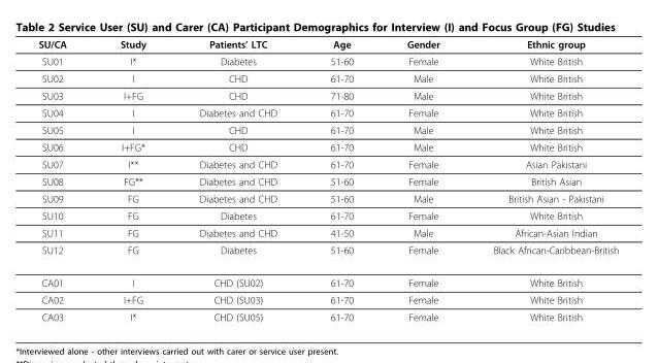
<table><thead><tr><td>SU/CA</td><td>Study</td><td>Patients’ LTC</td><td>Age</td><td>Gender</td><td>Ethnic group</td></tr></thead><tbody><tr><td>SU01</td><td>I*</td><td>Diabetes</td><td>51-60</td><td>Female</td><td>White British</td></tr><tr><td>SU02</td><td>I</td><td>CHD</td><td>61-70</td><td>Male</td><td>White British</td></tr><tr><td>SU03</td><td>I+FG</td><td>CHD</td><td>71-80</td><td>Male</td><td>White British</td></tr><tr><td>SU04</td><td>I</td><td>Diabetes and CHD</td><td>61-70</td><td>Female</td><td>White British</td></tr><tr><td>SU05</td><td>I</td><td>CHD</td><td>61-70</td><td>Male</td><td>White British</td></tr><tr><td>SU06</td><td>I+FG*</td><td>CHD</td><td>61-70</td><td>Male</td><td>White British</td></tr><tr><td>SU07</td><td>I**</td><td>Diabetes and CHD</td><td>61-70</td><td>Female</td><td>Asian Pakistani</td></tr><tr><td>SU08</td><td>FG**</td><td>Diabetes and CHD</td><td>51-60</td><td>Female</td><td>British Asian</td></tr><tr><td>SU09</td><td>FG</td><td>Diabetes and CHD</td><td>51-60</td><td>Male</td><td>British Asian - Pakistani</td></tr><tr><td>SU10</td><td>FG</td><td>Diabetes</td><td>61-70</td><td>Female</td><td>White British</td></tr><tr><td>SU11</td><td>FG</td><td>Diabetes and CHD</td><td>41-50</td><td>Male</td><td>African-Asian Indian</td></tr><tr><td>SU12</td><td>FG</td><td>Diabetes</td><td>51-60</td><td>Female</td><td>Black African-Caribbean-British</td></tr><tr><td>CA01</td><td>I</td><td>CHD (SU02)</td><td>61-70</td><td>Female</td><td>White British</td></tr><tr><td>CA02</td><td>I+FG</td><td>CHD (SU03)</td><td>61-70</td><td>Female</td><td>White British</td></tr><tr><td>CA03</td><td>I*</td><td>CHD (SU05)</td><td>61-70</td><td>Female</td><td>White British</td></tr></tbody></table>